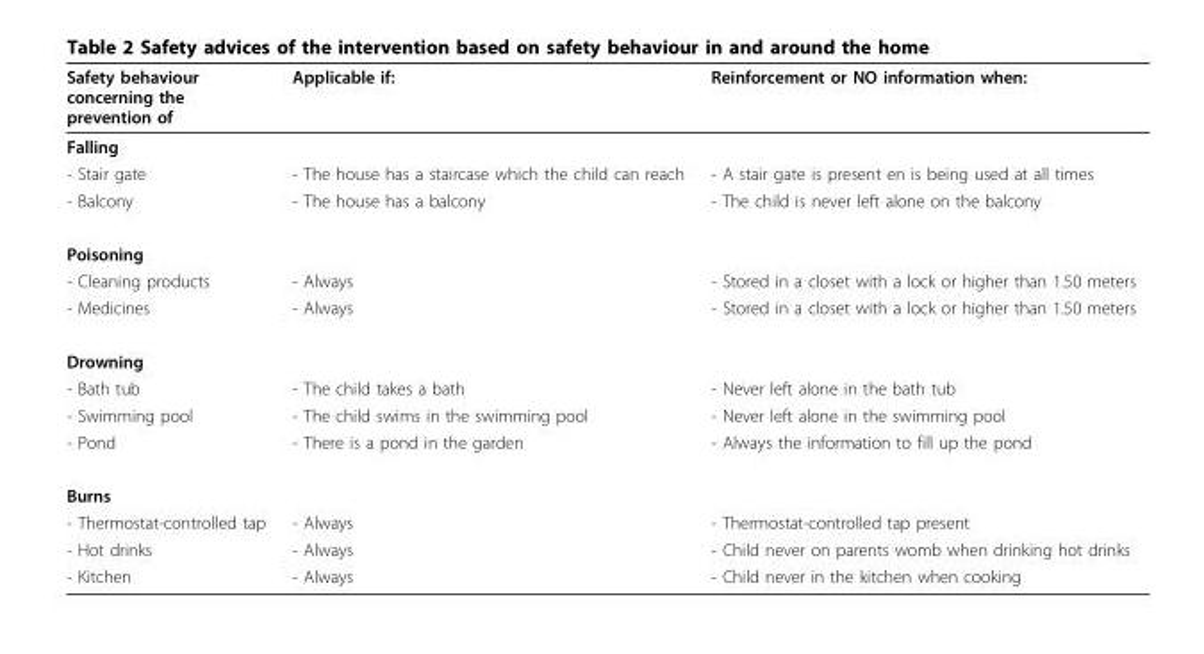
<table><thead><tr><td>Safety behaviour concerning the prevention of</td><td>Applicable if:</td><td>Reinforcement or NO information when:</td></tr></thead><tbody><tr><td colspan="3">Falling</td></tr><tr><td>- Stair gate</td><td>- The house has a staircase which the child can reach</td><td>- A stair gate is present en is being used at all times</td></tr><tr><td>- Balcony</td><td>- The house has a balcony</td><td>- The child is never left alone on the balcony</td></tr><tr><td colspan="3">Poisoning</td></tr><tr><td>- Cleaning products</td><td>- Always</td><td>- Stored in a closet with a lock or higher than 1.50 meters</td></tr><tr><td>- Medicines</td><td>- Always</td><td>- Stored in a closet with a lock or higher than 1.50 meters</td></tr><tr><td colspan="3">Drowning</td></tr><tr><td>- Bath tub</td><td>- The child takes a bath</td><td>- Never left alone in the bath tub</td></tr><tr><td>- Swimming pool</td><td>- The child swims in the swimming pool</td><td>- Never left alone in the swimming pool</td></tr><tr><td>- Pond</td><td>- There is a pond in the garden</td><td>- Always the information to fill up the pond</td></tr><tr><td colspan="3">Burns</td></tr><tr><td>- Thermostat-controlled tap</td><td>- Always</td><td>- Thermostat-controlled tap present</td></tr><tr><td>- Hot drinks</td><td>- Always</td><td>- Child never on parents womb when drinking hot drinks</td></tr><tr><td>- Kitchen</td><td>- Always</td><td>- Child never in the kitchen when cooking</td></tr></tbody></table>